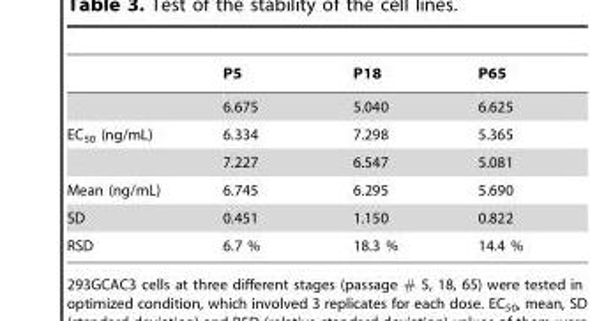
<table><thead><tr><td></td><td>P5</td><td>P18</td><td>P65</td></tr></thead><tbody><tr><td></td><td>6.675</td><td>5.040</td><td>6.625</td></tr><tr><td rowspan="2">EC<sub>50</sub> (ng/mL)</td><td>6.334</td><td>7.298</td><td>5.365</td></tr><tr><td>7.227</td><td>6.547</td><td>5.081</td></tr><tr><td>Mean (ng/mL)</td><td>6.745</td><td>6.295</td><td>5.690</td></tr><tr><td>SD</td><td>0.451</td><td>1.150</td><td>0.822</td></tr><tr><td>RSD</td><td>6.7 %</td><td>18.3 %</td><td>14.4 %</td></tr></tbody></table>